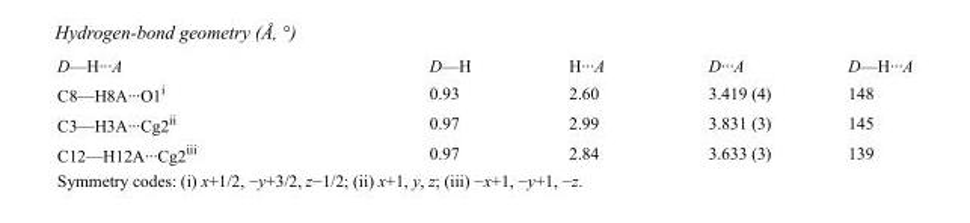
<table><tbody><tr><td>D—H···A</td><td>D—H</td><td>H···A</td><td>D···A</td><td>D—H···A</td></tr><tr><td>C8—H8A···O1<sup>i</sup></td><td>0.93</td><td>2.60</td><td>3.419 (4)</td><td>148</td></tr><tr><td>C3—H3A···Cg2<sup>ii</sup></td><td>0.97</td><td>2.99</td><td>3.831 (3)</td><td>145</td></tr><tr><td>C12—H12A···Cg2<sup>iii</sup></td><td>0.97</td><td>2.84</td><td>3.633 (3)</td><td>139</td></tr></tbody></table>